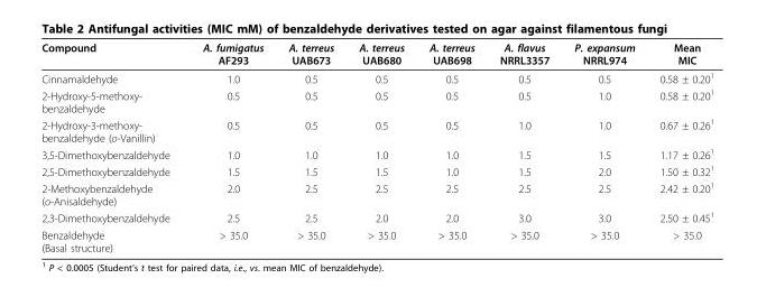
<table><thead><tr><td>Compound</td><td>A. fumigatus AF293</td><td>A. terreus UAB673</td><td>A. terreus UAB680</td><td>A. terreus UAB698</td><td>A. flavus NRRL3357</td><td>P. expansum NRRL974</td><td>Mean MIC</td></tr></thead><tbody><tr><td>Cinnamaldehyde</td><td>1.0</td><td>0.5</td><td>0.5</td><td>0.5</td><td>0.5</td><td>0.5</td><td>0.58 ± 0.20<sup>1</sup></td></tr><tr><td>2-Hydroxy-5-methoxy- benzaldehyde</td><td>0.5</td><td>0.5</td><td>0.5</td><td>0.5</td><td>0.5</td><td>1.0</td><td>0.58 ± 0.20<sup>1</sup></td></tr><tr><td>2-Hydroxy-3-methoxy- benzaldehyde (o-Vanillin)</td><td>0.5</td><td>0.5</td><td>0.5</td><td>0.5</td><td>1.0</td><td>1.0</td><td>0.67 ± 0.26<sup>1</sup></td></tr><tr><td>3,5-Dimethoxybenzaldehyde</td><td>1.0</td><td>1.0</td><td>1.0</td><td>1.0</td><td>1.5</td><td>1.5</td><td>1.17 ± 0.26<sup>1</sup></td></tr><tr><td>2,5-Dimethoxybenzaldehyde</td><td>1.5</td><td>1.5</td><td>1.5</td><td>1.0</td><td>1.5</td><td>2.0</td><td>1.50 ± 0.32<sup>1</sup></td></tr><tr><td>2-Methoxybenzaldehyde (o-Anisaldehyde)</td><td>2.0</td><td>2.5</td><td>2.5</td><td>2.5</td><td>2.5</td><td>2.5</td><td>2.42 ± 0.20<sup>1</sup></td></tr><tr><td>2,3-Dimethoxybenzaldehyde</td><td>2.5</td><td>2.5</td><td>2.0</td><td>2.0</td><td>3.0</td><td>3.0</td><td>2.50 ± 0.45<sup>1</sup></td></tr><tr><td>Benzaldehyde (Basal structure)</td><td>&gt; 35.0</td><td>&gt; 35.0</td><td>&gt; 35.0</td><td>&gt; 35.0</td><td>&gt; 35.0</td><td>&gt; 35.0</td><td>&gt; 35.0</td></tr></tbody></table>